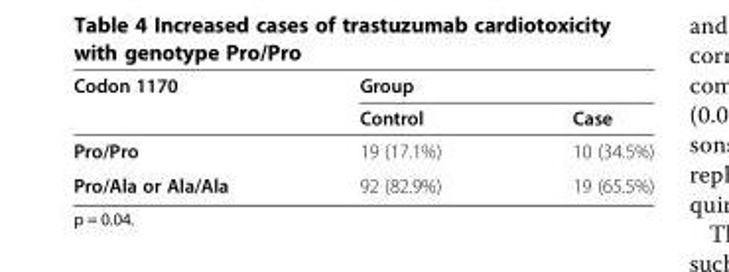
<table><thead><tr><td rowspan="2">Codon 1170</td><td colspan="2">Group</td></tr><tr><td>Control</td><td>Case</td></tr></thead><tbody><tr><td>Pro/Pro</td><td>19 (17.1%)</td><td>10 (34.5%)</td></tr><tr><td>Pro/Ala or Ala/Ala</td><td>92 (82.9%)</td><td>19 (65.5%)</td></tr></tbody></table>